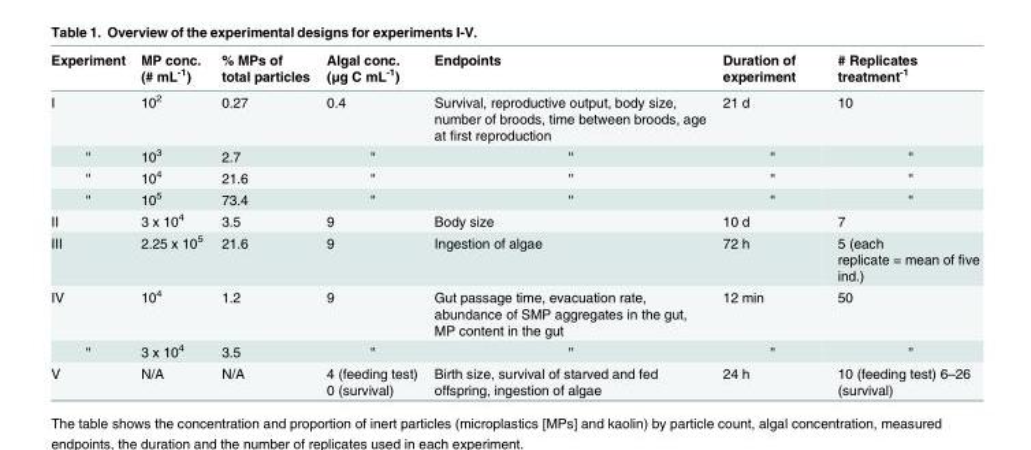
<table><thead><tr><td>Experiment</td><td>MP conc. (# mL<sup>-1</sup>)</td><td>% MPs of total particles</td><td>Algal conc. (μg C mL<sup>-1</sup>)</td><td>Endpoints</td><td>Duration of experiment</td><td># Replicates treatment<sup>-1</sup></td></tr></thead><tbody><tr><td>I</td><td>10<sup>2</sup></td><td>0.27</td><td>0.4</td><td>Survival, reproductive output, body size, number of broods, time between broods, age at first reproduction</td><td>21 d</td><td>10</td></tr><tr><td>&#x27;&#x27;</td><td>10<sup>3</sup></td><td>2.7</td><td>&#x27;&#x27;</td><td>&#x27;&#x27;</td><td>&#x27;&#x27;</td><td>&#x27;&#x27;</td></tr><tr><td>&#x27;&#x27;</td><td>10<sup>4</sup></td><td>21.6</td><td>&#x27;&#x27;</td><td>&#x27;&#x27;</td><td>&#x27;&#x27;</td><td>&#x27;&#x27;</td></tr><tr><td>&#x27;&#x27;</td><td>10<sup>5</sup></td><td>73.4</td><td>&#x27;&#x27;</td><td>&#x27;&#x27;</td><td>&#x27;&#x27;</td><td>&#x27;&#x27;</td></tr><tr><td>II</td><td>3 x 10<sup>4</sup></td><td>3.5</td><td>9</td><td>Body size</td><td>10 d</td><td>7</td></tr><tr><td>III</td><td>2.25 x 10<sup>5</sup></td><td>21.6</td><td>9</td><td>Ingestion of algae</td><td>72 h</td><td>5 (each replicate = mean of five ind.)</td></tr><tr><td>IV</td><td>10<sup>4</sup></td><td>1.2</td><td>9</td><td>Gut passage time, evacuation rate, abundance of SMP aggregates in the gut, MP content in the gut</td><td>12 min</td><td>50</td></tr><tr><td>&#x27;&#x27;</td><td>3 x 10<sup>4</sup></td><td>3.5</td><td>&#x27;&#x27;</td><td>&#x27;&#x27;</td><td>&#x27;&#x27;</td><td>&#x27;&#x27;</td></tr><tr><td>V</td><td>N/A</td><td>N/A</td><td>4 (feeding test) 0 (survival)</td><td>Birth size, survival of starved and fed offspring, ingestion of algae</td><td>24 h</td><td>10 (feeding test) 6–26 (survival)</td></tr></tbody></table>